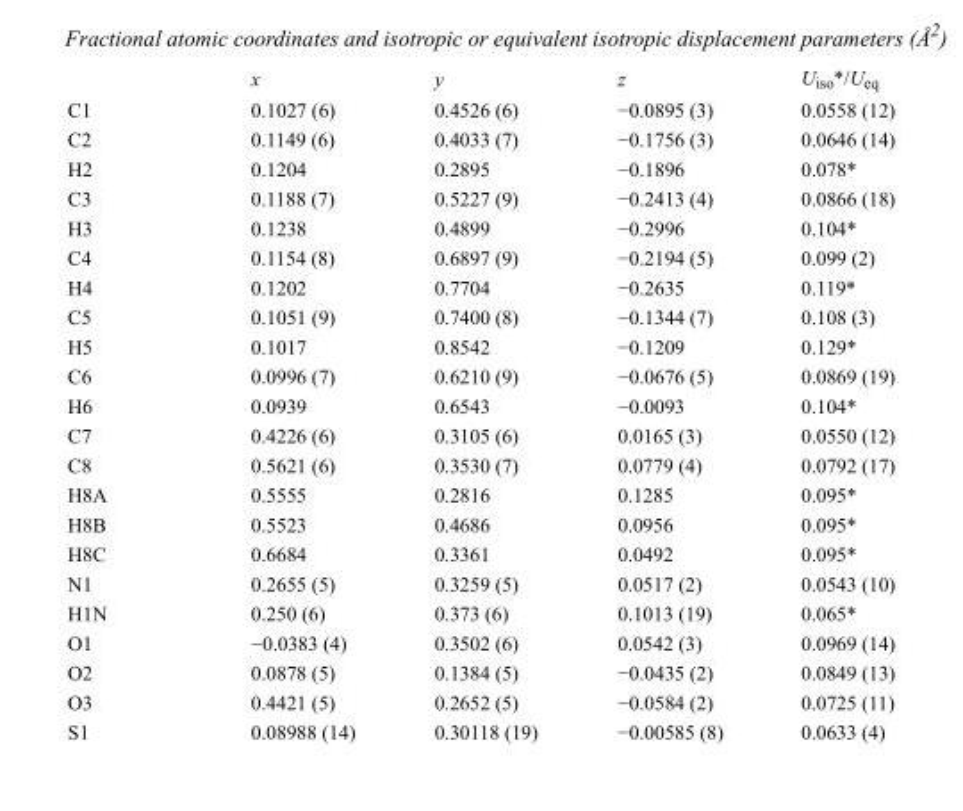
<table><thead><tr><td></td><td>x</td><td>y</td><td>z</td><td>U<sub>iso</sub>*/U<sub>eq</sub></td></tr></thead><tbody><tr><td>C1</td><td>0.1027 (6)</td><td>0.4526 (6)</td><td>−0.0895 (3)</td><td>0.0558 (12)</td></tr><tr><td>C2</td><td>0.1149 (6)</td><td>0.4033 (7)</td><td>−0.1756 (3)</td><td>0.0646 (14)</td></tr><tr><td>H2</td><td>0.1204</td><td>0.2895</td><td>−0.1896</td><td>0.078*</td></tr><tr><td>C3</td><td>0.1188 (7)</td><td>0.5227 (9)</td><td>−0.2413 (4)</td><td>0.0866 (18)</td></tr><tr><td>H3</td><td>0.1238</td><td>0.4899</td><td>−0.2996</td><td>0.104*</td></tr><tr><td>C4</td><td>0.1154 (8)</td><td>0.6897 (9)</td><td>−0.2194 (5)</td><td>0.099 (2)</td></tr><tr><td>H4</td><td>0.1202</td><td>0.7704</td><td>−0.2635</td><td>0.119*</td></tr><tr><td>C5</td><td>0.1051 (9)</td><td>0.7400 (8)</td><td>−0.1344 (7)</td><td>0.108 (3)</td></tr><tr><td>H5</td><td>0.1017</td><td>0.8542</td><td>−0.1209</td><td>0.129*</td></tr><tr><td>C6</td><td>0.0996 (7)</td><td>0.6210 (9)</td><td>−0.0676 (5)</td><td>0.0869 (19)</td></tr><tr><td>H6</td><td>0.0939</td><td>0.6543</td><td>−0.0093</td><td>0.104*</td></tr><tr><td>C7</td><td>0.4226 (6)</td><td>0.3105 (6)</td><td>0.0165 (3)</td><td>0.0550 (12)</td></tr><tr><td>C8</td><td>0.5621 (6)</td><td>0.3530 (7)</td><td>0.0779 (4)</td><td>0.0792 (17)</td></tr><tr><td>H8A</td><td>0.5555</td><td>0.2816</td><td>0.1285</td><td>0.095*</td></tr><tr><td>H8B</td><td>0.5523</td><td>0.4686</td><td>0.0956</td><td>0.095*</td></tr><tr><td>H8C</td><td>0.6684</td><td>0.3361</td><td>0.0492</td><td>0.095*</td></tr><tr><td>N1</td><td>0.2655 (5)</td><td>0.3259 (5)</td><td>0.0517 (2)</td><td>0.0543 (10)</td></tr><tr><td>H1N</td><td>0.250 (6)</td><td>0.373 (6)</td><td>0.1013 (19)</td><td>0.065*</td></tr><tr><td>O1</td><td>−0.0383 (4)</td><td>0.3502 (6)</td><td>0.0542 (3)</td><td>0.0969 (14)</td></tr><tr><td>O2</td><td>0.0878 (5)</td><td>0.1384 (5)</td><td>−0.0435 (2)</td><td>0.0849 (13)</td></tr><tr><td>O3</td><td>0.4421 (5)</td><td>0.2652 (5)</td><td>−0.0584 (2)</td><td>0.0725 (11)</td></tr><tr><td>S1</td><td>0.08988 (14)</td><td>0.30118 (19)</td><td>−0.00585 (8)</td><td>0.0633 (4)</td></tr></tbody></table>